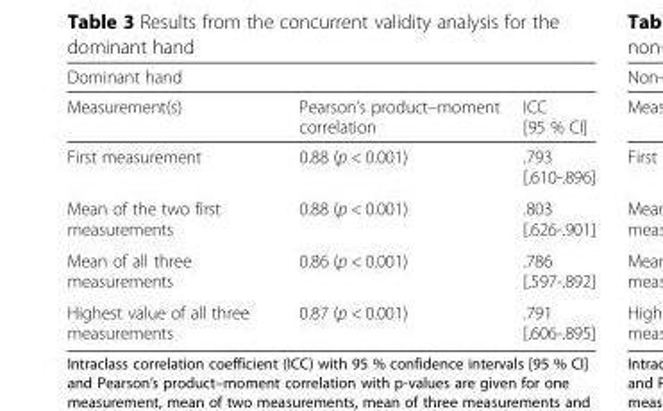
<table><thead><tr><td colspan="3">Dominant hand</td></tr><tr><td>Measurement(s)</td><td>Pearson’s product–moment correlation</td><td>ICC [95 % CI]</td></tr></thead><tbody><tr><td>First measurement</td><td>0.88 (p &lt; 0.001)</td><td>.793 [.610-.896]</td></tr><tr><td>Mean of the two first measurements</td><td>0.88 (p &lt; 0.001)</td><td>.803 [.626-.901]</td></tr><tr><td>Mean of all three measurements</td><td>0.86 (p &lt; 0.001)</td><td>.786 [.597-.892]</td></tr><tr><td>Highest value of all three measurements</td><td>0.87 (p &lt; 0.001)</td><td>.791 [.606-.895]</td></tr></tbody></table>